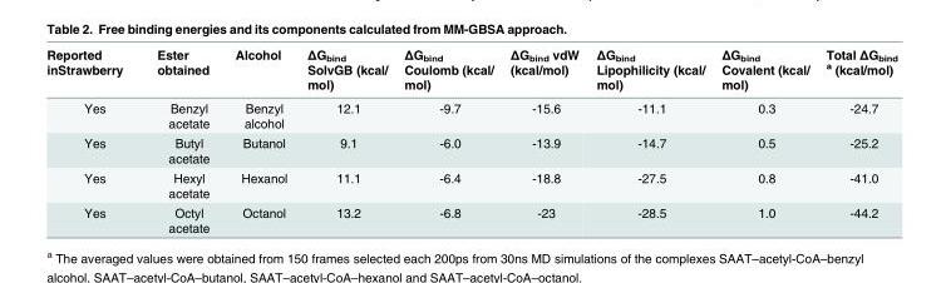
<table><thead><tr><td>Reported inStrawberry</td><td>Ester obtained</td><td>Alcohol</td><td>ΔG<sub>bind</sub> SolvGB (kcal/ mol)</td><td>ΔG<sub>bind</sub> Coulomb (kcal/ mol)</td><td>ΔG<sub>bind</sub> vdW (kcal/mol)</td><td>ΔG<sub>bind</sub> Lipophilicity (kcal/ mol)</td><td>ΔG<sub>bind</sub> Covalent (kcal/ mol)</td><td>Total ΔG<sub>bind</sub> <sup>a</sup> (kcal/mol)</td></tr></thead><tbody><tr><td>Yes</td><td>Benzyl acetate</td><td>Benzyl alcohol</td><td>12.1</td><td>-9.7</td><td>-15.6</td><td>-11.1</td><td>0.3</td><td>-24.7</td></tr><tr><td>Yes</td><td>Butyl acetate</td><td>Butanol</td><td>9.1</td><td>-6.0</td><td>-13.9</td><td>-14.7</td><td>0.5</td><td>-25.2</td></tr><tr><td>Yes</td><td>Hexyl acetate</td><td>Hexanol</td><td>11.1</td><td>-6.4</td><td>-18.8</td><td>-27.5</td><td>0.8</td><td>-41.0</td></tr><tr><td>Yes</td><td>Octyl acetate</td><td>Octanol</td><td>13.2</td><td>-6.8</td><td>-23</td><td>-28.5</td><td>1.0</td><td>-44.2</td></tr></tbody></table>